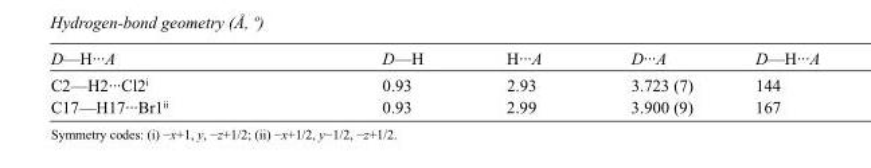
<table><tbody><tr><td>D—H···A</td><td>D—H</td><td>H···A</td><td>D···A</td><td>D—H···A</td></tr><tr><td>C2—H2···Cl2<sup>i</sup></td><td>0.93</td><td>2.93</td><td>3.723 (7)</td><td>144</td></tr><tr><td>C17—H17···Br1<sup>ii</sup></td><td>0.93</td><td>2.99</td><td>3.900 (9)</td><td>167</td></tr></tbody></table>